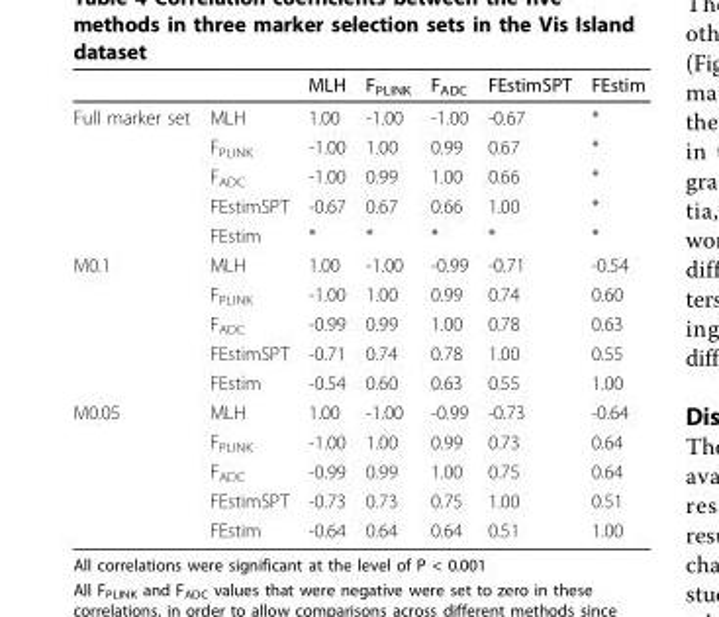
<table><thead><tr><td></td><td></td><td>MLH</td><td>F<sub>PLINK</sub></td><td>F<sub>ADC</sub></td><td>FEstimSPT</td><td>FEstim</td></tr></thead><tbody><tr><td rowspan="5">Full marker set</td><td>MLH</td><td>1.00</td><td>-1.00</td><td>-1.00</td><td>-0.67</td><td>*</td></tr><tr><td>F<sub>PLINK</sub></td><td>-1.00</td><td>1.00</td><td>0.99</td><td>0.67</td><td>*</td></tr><tr><td>F<sub>ADC</sub></td><td>-1.00</td><td>0.99</td><td>1.00</td><td>0.66</td><td>*</td></tr><tr><td>FEstimSPT</td><td>-0.67</td><td>0.67</td><td>0.66</td><td>1.00</td><td>*</td></tr><tr><td>FEstim</td><td>*</td><td>*</td><td>*</td><td>*</td><td>*</td></tr><tr><td rowspan="5">M0.1</td><td>MLH</td><td>1.00</td><td>-1.00</td><td>-0.99</td><td>-0.71</td><td>-0.54</td></tr><tr><td>F<sub>PLINK</sub></td><td>-1.00</td><td>1.00</td><td>0.99</td><td>0.74</td><td>0.60</td></tr><tr><td>F<sub>ADC</sub></td><td>-0.99</td><td>0.99</td><td>1.00</td><td>0.78</td><td>0.63</td></tr><tr><td>FEstimSPT</td><td>-0.71</td><td>0.74</td><td>0.78</td><td>1.00</td><td>0.55</td></tr><tr><td>FEstim</td><td>-0.54</td><td>0.60</td><td>0.63</td><td>0.55</td><td>1.00</td></tr><tr><td rowspan="5">M0.05</td><td>MLH</td><td>1.00</td><td>-1.00</td><td>-0.99</td><td>-0.73</td><td>-0.64</td></tr><tr><td>F<sub>PLINK</sub></td><td>-1.00</td><td>1.00</td><td>0.99</td><td>0.73</td><td>0.64</td></tr><tr><td>F<sub>ADC</sub></td><td>-0.99</td><td>0.99</td><td>1.00</td><td>0.75</td><td>0.64</td></tr><tr><td>FEstimSPT</td><td>-0.73</td><td>0.73</td><td>0.75</td><td>1.00</td><td>0.51</td></tr><tr><td>FEstim</td><td>-0.64</td><td>0.64</td><td>0.64</td><td>0.51</td><td>1.00</td></tr></tbody></table>